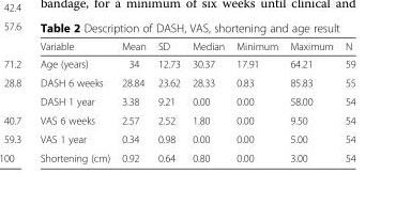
<table><thead><tr><td>Variable</td><td>Mean</td><td>SD</td><td>Median</td><td>Minimum</td><td>Maximum</td><td>N</td></tr></thead><tbody><tr><td>Age (years)</td><td>34</td><td>12.73</td><td>30.37</td><td>17.91</td><td>64.21</td><td>59</td></tr><tr><td>DASH 6 weeks</td><td>28.84</td><td>23.62</td><td>28.33</td><td>0.83</td><td>85.83</td><td>55</td></tr><tr><td>DASH 1 year</td><td>3.38</td><td>9.21</td><td>0.00</td><td>0.00</td><td>58.00</td><td>54</td></tr><tr><td>VAS 6 weeks</td><td>2.57</td><td>2.52</td><td>1.80</td><td>0.00</td><td>9.50</td><td>54</td></tr><tr><td>VAS 1 year</td><td>0.34</td><td>0.98</td><td>0.00</td><td>0.00</td><td>5.00</td><td>54</td></tr><tr><td>Shortening (cm)</td><td>0.92</td><td>0.64</td><td>0.80</td><td>0.00</td><td>3.00</td><td>54</td></tr></tbody></table>